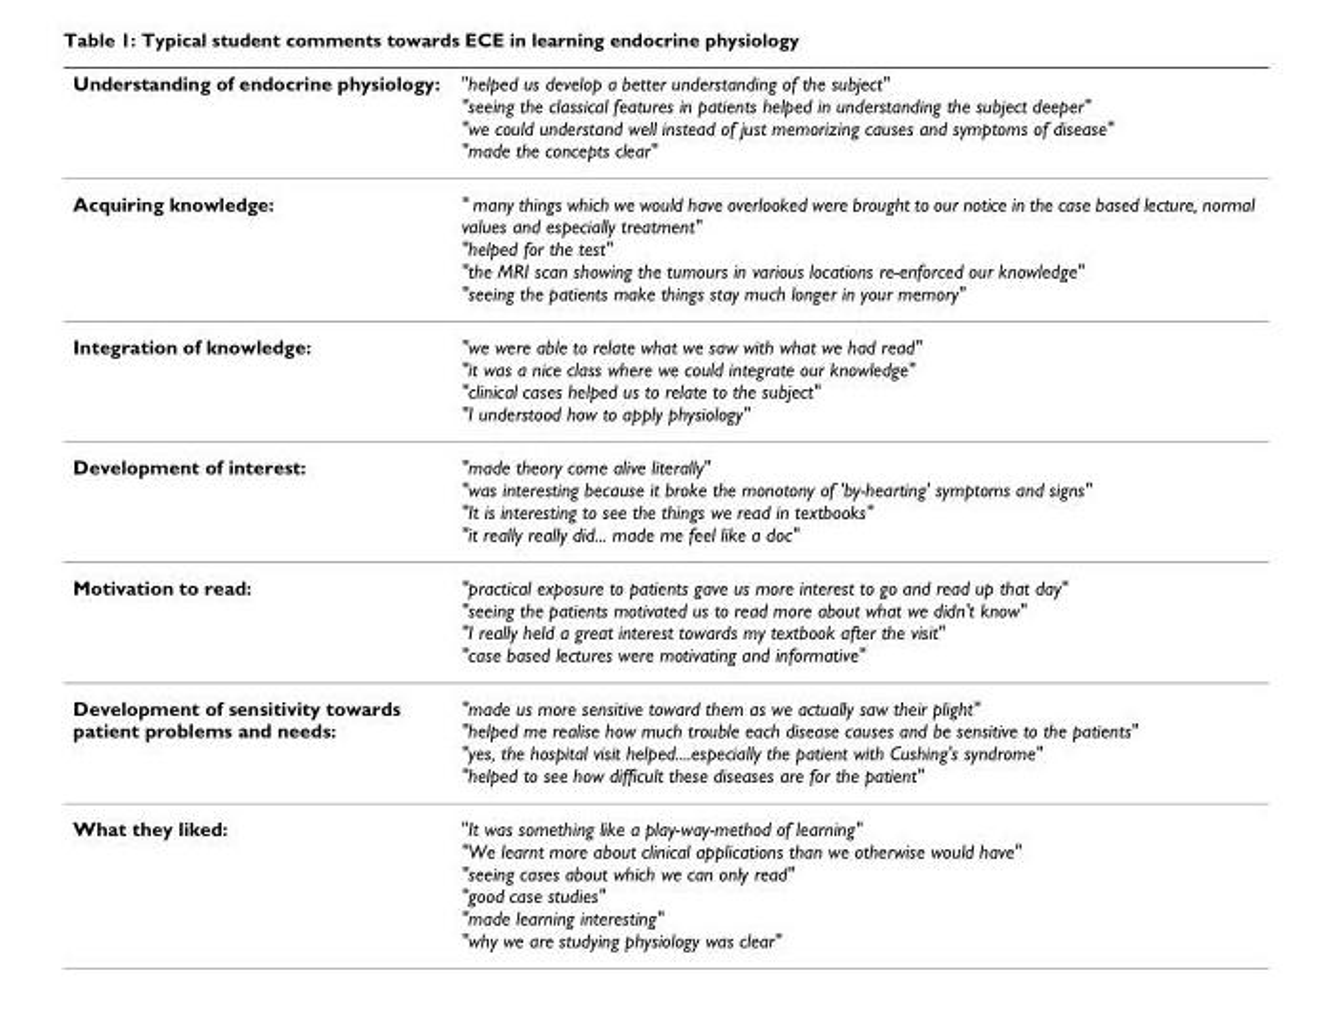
<table><thead><tr><td>Understanding of endocrine physiology:</td><td>&quot;helped us develop a better understanding of the subject&quot; &quot;seeing the classical features in patients helped in understanding the subject deeper&quot; &quot;we could understand well instead of just memorizing causes and symptoms of disease&quot; &quot;made the concepts clear&quot;</td></tr></thead><tbody><tr><td>Acquiring knowledge:</td><td>&quot; many things which we would have overlooked were brought to our notice in the case based lecture, normal values and especially treatment&quot; &quot;helped for the test&quot; &quot;the MRI scan showing the tumours in various locations re-enforced our knowledge&quot; &quot;seeing the patients make things stay much longer in your memory&quot;</td></tr><tr><td>Integration of knowledge:</td><td>&quot;we were able to relate what we saw with what we had read&quot; &quot;it was a nice class where we could integrate our knowledge&quot; &quot;clinical cases helped us to relate to the subject&quot; &quot;I understood how to apply physiology&quot;</td></tr><tr><td>Development of interest:</td><td>&quot;made theory come alive literally&quot; &quot;was interesting because it broke the monotony of &#x27;by-hearting&#x27; symptoms and signs&quot; &quot;It is interesting to see the things we read in textbooks&quot; &quot;it really really did... made me feel like a doc&quot;</td></tr><tr><td>Motivation to read:</td><td>&quot;practical exposure to patients gave us more interest to go and read up that day&quot; &quot;seeing the patients motivated us to read more about what we didn&#x27;t know&quot; &quot;I really held a great interest towards my textbook after the visit&quot; &quot;case based lectures were motivating and informative&quot;</td></tr><tr><td>Development of sensitivity towards patient problems and needs:</td><td>&quot;made us more sensitive toward them as we actually saw their plight&quot; &quot;helped me realise how much trouble each disease causes and be sensitive to the patients&quot; &quot;yes, the hospital visit helped....especially the patient with Cushing&#x27;s syndrome&quot; &quot;helped to see how difficult these diseases are for the patient&quot;</td></tr><tr><td>What they liked:</td><td>&quot;It was something like a play-way-method of learning&quot; &quot;We learnt more about clinical applications than we otherwise would have&quot; &quot;seeing cases about which we can only read&quot; &quot;good case studies&quot; &quot;made learning interesting&quot; &quot;why we are studying physiology was clear&quot;</td></tr></tbody></table>